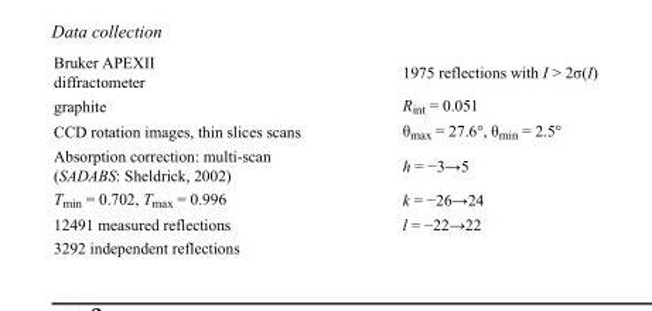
<table><tbody><tr><td>Bruker APEXII diffractometer</td><td>1975 reflections with I &gt; 2σ(I)</td></tr><tr><td>graphite</td><td>R<sub>int</sub> = 0.051</td></tr><tr><td>CCD rotation images, thin slices scans</td><td>θ<sub>max</sub> = 27.6°, θ<sub>min</sub> = 2.5°</td></tr><tr><td>Absorption correction: multi-scan (SADABS: Sheldrick, 2002)</td><td>h = −3→5</td></tr><tr><td>T<sub>min</sub> = 0.702, T<sub>max</sub> = 0.996</td><td>k = −26→24</td></tr><tr><td>12491 measured reflections</td><td>l = −22→22</td></tr><tr><td>3292 independent reflections</td><td></td></tr></tbody></table>